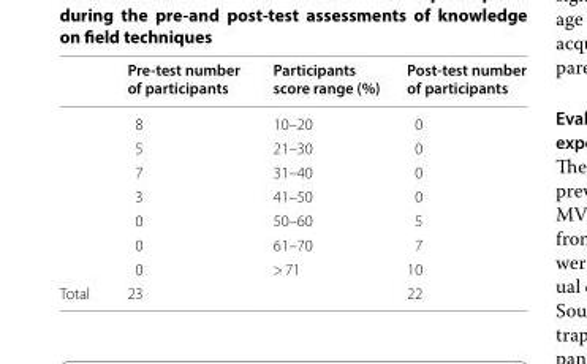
<table><thead><tr><td></td><td>Pre‑test number of participants</td><td>Participants score range (%)</td><td>Post‑test number of participants</td></tr></thead><tbody><tr><td></td><td>8</td><td>10–20</td><td>0</td></tr><tr><td></td><td>5</td><td>21–30</td><td>0</td></tr><tr><td></td><td>7</td><td>31–40</td><td>0</td></tr><tr><td></td><td>3</td><td>41–50</td><td>0</td></tr><tr><td></td><td>0</td><td>50–60</td><td>5</td></tr><tr><td></td><td>0</td><td>61–70</td><td>7</td></tr><tr><td></td><td>0</td><td>&gt; 71</td><td>10</td></tr><tr><td>Total</td><td>23</td><td></td><td>22</td></tr></tbody></table>